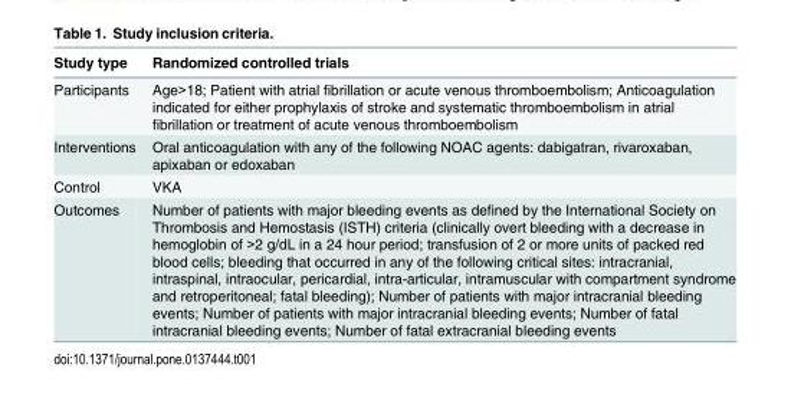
<table><thead><tr><td>Study type</td><td>Randomized controlled trials</td></tr></thead><tbody><tr><td>Participants</td><td>Age&gt;18; Patient with atrial fibrillation or acute venous thromboembolism; Anticoagulation indicated for either prophylaxis of stroke and systematic thromboembolism in atrial fibrillation or treatment of acute venous thromboembolism</td></tr><tr><td>Interventions</td><td>Oral anticoagulation with any of the following NOAC agents: dabigatran, rivaroxaban, apixaban or edoxaban</td></tr><tr><td>Control</td><td>VKA</td></tr><tr><td>Outcomes</td><td>Number of patients with major bleeding events as defined by the International Society on Thrombosis and Hemostasis (ISTH) criteria (clinically overt bleeding with a decrease in hemoglobin of &gt;2 g/dL in a 24 hour period; transfusion of 2 or more units of packed red blood cells; bleeding that occurred in any of the following critical sites: intracranial, intraspinal, intraocular, pericardial, intra-articular, intramuscular with compartment syndrome and retroperitoneal; fatal bleeding); Number of patients with major intracranial bleeding events; Number of patients with major intracranial bleeding events; Number of fatal intracranial bleeding events; Number of fatal extracranial bleeding events</td></tr></tbody></table>